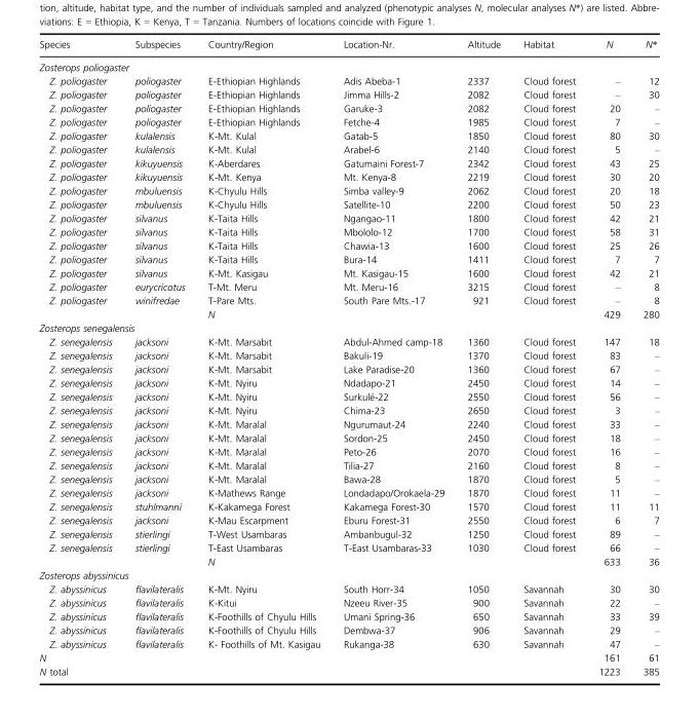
<table><thead><tr><td>Species</td><td>Subspecies</td><td>Country/Region</td><td>Location-Nr.</td><td>Altitude</td><td>Habitat</td><td>N</td><td>N*</td></tr></thead><tbody><tr><td colspan="8">Zosterops poliogaster</td></tr><tr><td>Z. poliogaster</td><td>poliogaster</td><td>E-Ethiopian Highlands</td><td>Adis Abeba-1</td><td>2337</td><td>Cloud forest</td><td>–</td><td>12</td></tr><tr><td>Z. poliogaster</td><td>poliogaster</td><td>E-Ethiopian Highlands</td><td>Jimma Hills-2</td><td>2082</td><td>Cloud forest</td><td>–</td><td>30</td></tr><tr><td>Z. poliogaster</td><td>poliogaster</td><td>E-Ethiopian Highlands</td><td>Garuke-3</td><td>2082</td><td>Cloud forest</td><td>20</td><td>–</td></tr><tr><td>Z. poliogaster</td><td>poliogaster</td><td>E-Ethiopian Highlands</td><td>Fetche-4</td><td>1985</td><td>Cloud forest</td><td>7</td><td>–</td></tr><tr><td>Z. poliogaster</td><td>kulalensis</td><td>K-Mt. Kulal</td><td>Gatab-5</td><td>1850</td><td>Cloud forest</td><td>80</td><td>30</td></tr><tr><td>Z. poliogaster</td><td>kulalensis</td><td>K-Mt. Kulal</td><td>Arabel-6</td><td>2140</td><td>Cloud forest</td><td>5</td><td>–</td></tr><tr><td>Z. poliogaster</td><td>kikuyuensis</td><td>K-Aberdares</td><td>Gatumaini Forest-7</td><td>2342</td><td>Cloud forest</td><td>43</td><td>25</td></tr><tr><td>Z. poliogaster</td><td>kikuyuensis</td><td>K-Mt. Kenya</td><td>Mt. Kenya-8</td><td>2219</td><td>Cloud forest</td><td>30</td><td>20</td></tr><tr><td>Z. poliogaster</td><td>mbuluensis</td><td>K-Chyulu Hills</td><td>Simba valley-9</td><td>2062</td><td>Cloud forest</td><td>20</td><td>18</td></tr><tr><td>Z. poliogaster</td><td>mbuluensis</td><td>K-Chyulu Hills</td><td>Satellite-10</td><td>2200</td><td>Cloud forest</td><td>50</td><td>23</td></tr><tr><td>Z. poliogaster</td><td>silvanus</td><td>K-Taita Hills</td><td>Ngangao-11</td><td>1800</td><td>Cloud forest</td><td>42</td><td>21</td></tr><tr><td>Z. poliogaster</td><td>silvanus</td><td>K-Taita Hills</td><td>Mbololo-12</td><td>1700</td><td>Cloud forest</td><td>58</td><td>31</td></tr><tr><td>Z. poliogaster</td><td>silvanus</td><td>K-Taita Hills</td><td>Chawia-13</td><td>1600</td><td>Cloud forest</td><td>25</td><td>26</td></tr><tr><td>Z. poliogaster</td><td>silvanus</td><td>K-Taita Hills</td><td>Bura-14</td><td>1411</td><td>Cloud forest</td><td>7</td><td>7</td></tr><tr><td>Z. poliogaster</td><td>silvanus</td><td>K-Mt. Kasigau</td><td>Mt. Kasigau-15</td><td>1600</td><td>Cloud forest</td><td>42</td><td>21</td></tr><tr><td>Z. poliogaster</td><td>eurycricotus</td><td>T-Mt. Meru</td><td>Mt. Meru-16</td><td>3215</td><td>Cloud forest</td><td>–</td><td>8</td></tr><tr><td rowspan="2">Z. poliogaster</td><td>winifredae</td><td>T-Pare Mts.</td><td>South Pare Mts.-17</td><td>921</td><td>Cloud forest</td><td>–</td><td>8</td></tr><tr><td></td><td>N</td><td></td><td></td><td></td><td>429</td><td>280</td></tr><tr><td colspan="8">Zosterops senegalensis</td></tr><tr><td>Z. senegalensis</td><td>jacksoni</td><td>K-Mt. Marsabit</td><td>Abdul-Ahmed camp-18</td><td>1360</td><td>Cloud forest</td><td>147</td><td>18</td></tr><tr><td>Z. senegalensis</td><td>jacksoni</td><td>K-Mt. Marsabit</td><td>Bakuli-19</td><td>1370</td><td>Cloud forest</td><td>83</td><td>–</td></tr><tr><td>Z. senegalensis</td><td>jacksoni</td><td>K-Mt. Marsabit</td><td>Lake Paradise-20</td><td>1360</td><td>Cloud forest</td><td>67</td><td>–</td></tr><tr><td>Z. senegalensis</td><td>jacksoni</td><td>K-Mt. Nyiru</td><td>Ndadapo-21</td><td>2450</td><td>Cloud forest</td><td>14</td><td>–</td></tr><tr><td>Z. senegalensis</td><td>jacksoni</td><td>K-Mt. Nyiru</td><td>Surkul�e-22</td><td>2550</td><td>Cloud forest</td><td>56</td><td>–</td></tr><tr><td>Z. senegalensis</td><td>jacksoni</td><td>K-Mt. Nyiru</td><td>Chima-23</td><td>2650</td><td>Cloud forest</td><td>3</td><td>–</td></tr><tr><td>Z. senegalensis</td><td>jacksoni</td><td>K-Mt. Maralal</td><td>Ngurumaut-24</td><td>2240</td><td>Cloud forest</td><td>33</td><td>–</td></tr><tr><td>Z. senegalensis</td><td>jacksoni</td><td>K-Mt. Maralal</td><td>Sordon-25</td><td>2450</td><td>Cloud forest</td><td>18</td><td>–</td></tr><tr><td>Z. senegalensis</td><td>jacksoni</td><td>K-Mt. Maralal</td><td>Peto-26</td><td>2070</td><td>Cloud forest</td><td>16</td><td>–</td></tr><tr><td>Z. senegalensis</td><td>jacksoni</td><td>K-Mt. Maralal</td><td>Tilia-27</td><td>2160</td><td>Cloud forest</td><td>8</td><td>–</td></tr><tr><td>Z. senegalensis</td><td>jacksoni</td><td>K-Mt. Maralal</td><td>Bawa-28</td><td>1870</td><td>Cloud forest</td><td>5</td><td>–</td></tr><tr><td>Z. senegalensis</td><td>jacksoni</td><td>K-Mathews Range</td><td>Londadapo/Orokaela-29</td><td>1870</td><td>Cloud forest</td><td>11</td><td>–</td></tr><tr><td>Z. senegalensis</td><td>stuhlmanni</td><td>K-Kakamega Forest</td><td>Kakamega Forest-30</td><td>1570</td><td>Cloud forest</td><td>11</td><td>11</td></tr><tr><td>Z. senegalensis</td><td>jacksoni</td><td>K-Mau Escarpment</td><td>Eburu Forest-31</td><td>2550</td><td>Cloud forest</td><td>6</td><td>7</td></tr><tr><td>Z. senegalensis</td><td>stierlingi</td><td>T-West Usambaras</td><td>Ambanbugul-32</td><td>1250</td><td>Cloud forest</td><td>89</td><td>–</td></tr><tr><td rowspan="2">Z. senegalensis</td><td>stierlingi</td><td>T-East Usambaras</td><td>T-East Usambaras-33</td><td>1030</td><td>Cloud forest</td><td>66</td><td>–</td></tr><tr><td></td><td>N</td><td></td><td></td><td></td><td>633</td><td>36</td></tr><tr><td colspan="8">Zosterops abyssinicus</td></tr><tr><td>Z. abyssinicus</td><td>flavilateralis</td><td>K-Mt. Nyiru</td><td>South Horr-34</td><td>1050</td><td>Savannah</td><td>30</td><td>30</td></tr><tr><td>Z. abyssinicus</td><td>flavilateralis</td><td>K-Kitui</td><td>Nzeeu River-35</td><td>900</td><td>Savannah</td><td>22</td><td>–</td></tr><tr><td>Z. abyssinicus</td><td>flavilateralis</td><td>K-Foothills of Chyulu Hills</td><td>Umani Spring-36</td><td>650</td><td>Savannah</td><td>33</td><td>39</td></tr><tr><td>Z. abyssinicus</td><td>flavilateralis</td><td>K-Foothills of Chyulu Hills</td><td>Dembwa-37</td><td>906</td><td>Savannah</td><td>29</td><td>–</td></tr><tr><td>Z. abyssinicus</td><td>flavilateralis</td><td>K- Foothills of Mt. Kasigau</td><td>Rukanga-38</td><td>630</td><td>Savannah</td><td>47</td><td>–</td></tr><tr><td>N</td><td></td><td></td><td></td><td></td><td></td><td>161</td><td>61</td></tr><tr><td>N total</td><td></td><td></td><td></td><td></td><td></td><td>1223</td><td>385</td></tr></tbody></table>